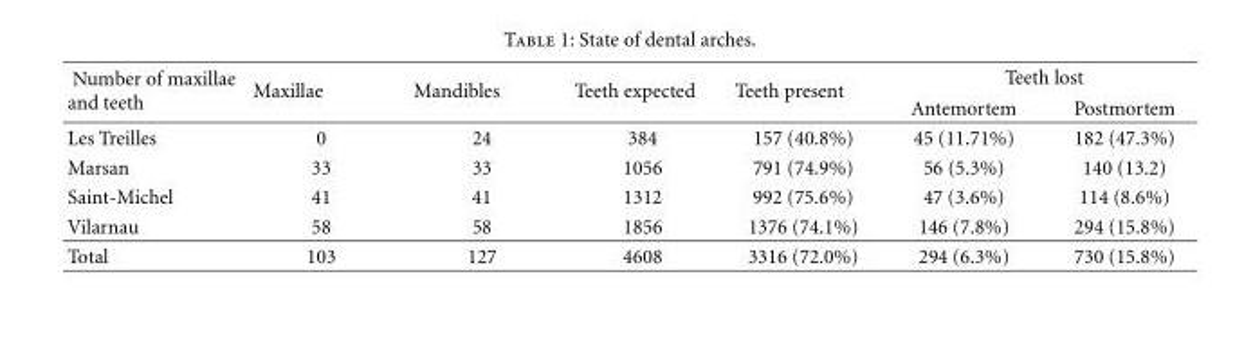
<table><thead><tr><td rowspan="2">Number of maxillae and teeth</td><td rowspan="2">Maxillae</td><td rowspan="2">Mandibles</td><td rowspan="2">Teeth expected</td><td rowspan="2">Teeth present</td><td colspan="2">Teeth lost</td></tr><tr><td>Antemortem</td><td>Postmortem</td></tr></thead><tbody><tr><td>Les Treilles</td><td>0</td><td>24</td><td>384</td><td>157 (40.8%)</td><td>45 (11.71%)</td><td>182 (47.3%)</td></tr><tr><td>Marsan</td><td>33</td><td>33</td><td>1056</td><td>791 (74.9%)</td><td>56 (5.3%)</td><td>140 (13.2)</td></tr><tr><td>Saint-Michel</td><td>41</td><td>41</td><td>1312</td><td>992 (75.6%)</td><td>47 (3.6%)</td><td>114 (8.6%)</td></tr><tr><td>Vilarnau</td><td>58</td><td>58</td><td>1856</td><td>1376 (74.1%)</td><td>146 (7.8%)</td><td>294 (15.8%)</td></tr><tr><td>Total</td><td>103</td><td>127</td><td>4608</td><td>3316 (72.0%)</td><td>294 (6.3%)</td><td>730 (15.8%)</td></tr></tbody></table>